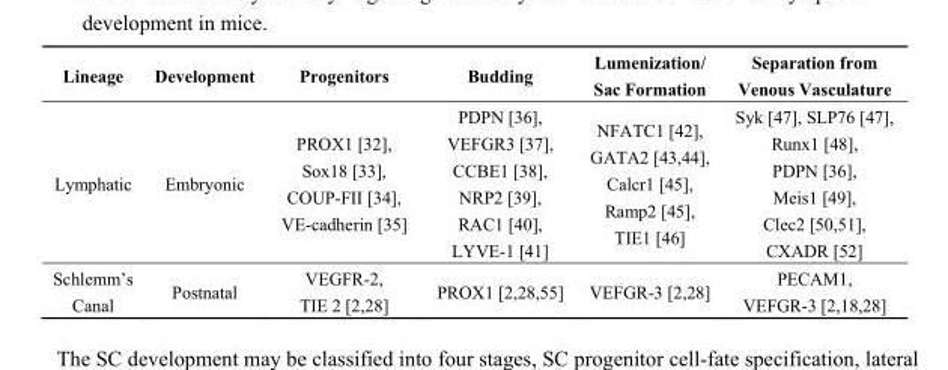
<table><thead><tr><td>Lineage</td><td>Development</td><td>Progenitors</td><td>Budding</td><td>Lumenization/ Sac Formation</td><td>Separation from Venous Vasculature</td></tr></thead><tbody><tr><td>Lymphatic</td><td>Embryonic</td><td>PROX1 [32], Sox18 [33], COUP-FII [34], VE-cadherin [35]</td><td>PDPN [36], VEFGR3 [37], CCBE1 [38], NRP2 [39], RAC1 [40], LYVE-1 [41]</td><td>NFATC1 [42], GATA2 [43,44], Calcr1 [45], Ramp2 [45], TIE1 [46]</td><td>Syk [47], SLP76 [47], Runx1 [48], PDPN [36], Meis1 [49], Clec2 [50,51], CXADR [52]</td></tr><tr><td>Schlemm’s Canal</td><td>Postnatal</td><td>VEGFR-2, TIE 2 [2,28]</td><td>PROX1 [2,28,55]</td><td>VEFGR-3 [2,28]</td><td>PECAM1, VEFGR-3 [2,18,28]</td></tr></tbody></table>